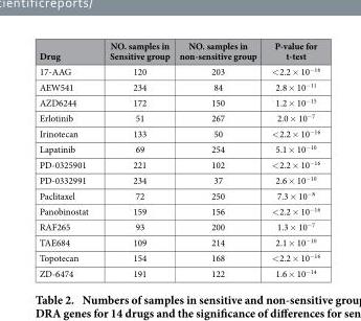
<table><thead><tr><td>Drug</td><td>NO. samples in Sensitive group</td><td>NO. samples in non-sensitive group</td><td>P-value for t-test</td></tr></thead><tbody><tr><td>17-AAG</td><td>120</td><td>203</td><td>&lt; 2.2 × 10<sup>−16</sup></td></tr><tr><td>AEW541</td><td>234</td><td>84</td><td>2.8 × 10<sup>−11</sup></td></tr><tr><td>AZD6244</td><td>172</td><td>150</td><td>1.2 × 10<sup>−15</sup></td></tr><tr><td>Erlotinib</td><td>51</td><td>267</td><td>2.0 × 10<sup>−7</sup></td></tr><tr><td>Irinotecan</td><td>133</td><td>50</td><td>&lt; 2.2 × 10<sup>−16</sup></td></tr><tr><td>Lapatinib</td><td>69</td><td>254</td><td>5.1 × 10<sup>−10</sup></td></tr><tr><td>PD-0325901</td><td>221</td><td>102</td><td>&lt; 2.2 × 10<sup>−16</sup></td></tr><tr><td>PD-0332991</td><td>234</td><td>37</td><td>2.6 × 10<sup>−10</sup></td></tr><tr><td>Paclitaxel</td><td>72</td><td>250</td><td>7.3 × 10<sup>−8</sup></td></tr><tr><td>Panobinostat</td><td>159</td><td>156</td><td>&lt; 2.2 × 10<sup>−16</sup></td></tr><tr><td>RAF265</td><td>93</td><td>200</td><td>1.3 × 10<sup>−7</sup></td></tr><tr><td>TAE684</td><td>109</td><td>214</td><td>2.1 × 10<sup>−10</sup></td></tr><tr><td>Topotecan</td><td>154</td><td>168</td><td>&lt; 2.2 × 10<sup>−16</sup></td></tr><tr><td>ZD-6474</td><td>191</td><td>122</td><td>1.6 × 10<sup>−14</sup></td></tr></tbody></table>